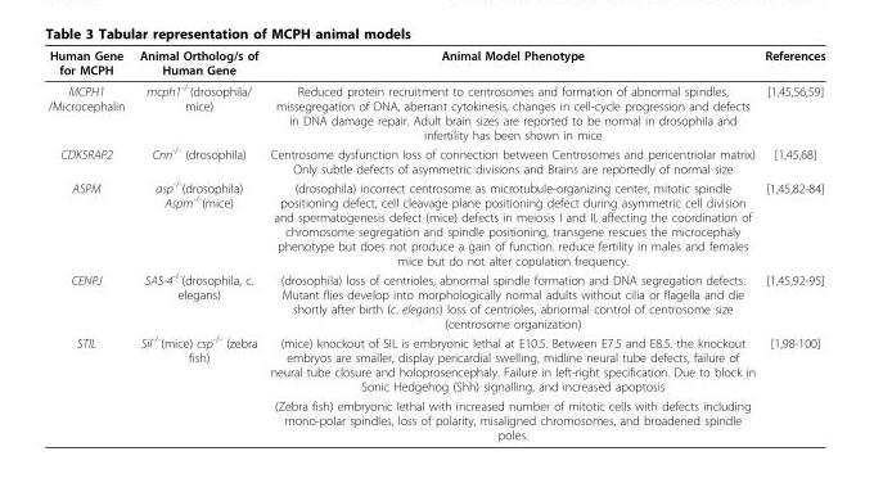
<table><thead><tr><td>Human Gene for MCPH</td><td>Animal Ortholog/s of Human Gene</td><td>Animal Model Phenotype</td><td>References</td></tr></thead><tbody><tr><td>MCPH1 /Microcephalin</td><td>mcph1<sup>-/-</sup>(drosophila/ mice)</td><td>Reduced protein recruitment to centrosomes and formation of abnormal spindles, missegregation of DNA, aberrant cytokinesis, changes in cell-cycle progression and defects in DNA damage repair. Adult brain sizes are reported to be normal in drosophila and infertility has been shown in mice</td><td>[1,45,56,59]</td></tr><tr><td>CDK5RAP2</td><td>Cnn<sup>-/-</sup> (drosophila)</td><td>Centrosome dysfunction loss of connection between Centrosomes and pericentriolar matrix) Only subtle defects of asymmetric divisions and Brains are reportedly of normal size</td><td>[1,45,68]</td></tr><tr><td>ASPM</td><td>asp<sup>-/-</sup>(drosophila) Aspm<sup>-/-</sup>(mice)</td><td>(drosophila) incorrect centrosome as microtubule-organizing center, mitotic spindle positioning defect, cell cleavage plane positioning defect during asymmetric cell division and spermatogenesis defect (mice) defects in meiosis I and II, affecting the coordination of chromosome segregation and spindle positioning, transgene rescues the microcephaly phenotype but does not produce a gain of function. reduce fertility in males and females mice but do not alter copulation frequency.</td><td>[1,45,82-84]</td></tr><tr><td>CENPJ</td><td>SAS-4<sup>-/-</sup>(drosophila, c. elegans)</td><td>(drosophila) loss of centrioles, abnormal spindle formation and DNA segregation defects. Mutant flies develop into morphologically normal adults without cilia or flagella and die shortly after birth (c. elegans) loss of centrioles, abnormal control of centrosome size (centrosome organization)</td><td>[1,45,92-95]</td></tr><tr><td rowspan="2">STIL</td><td>Sil<sup>-/-</sup>(mice) csp<sup>-/-</sup> (zebra fish)</td><td>(mice) knockout of SIL is embryonic lethal at E10.5. Between E7.5 and E8.5. the knockout embryos are smaller, display pericardial swelling, midline neural tube defects, failure of neural tube closure and holoprosencephaly. Failure in left-right specification. Due to block in Sonic Hedgehog (Shh) signalling, and increased apoptosis</td><td>[1,98-100]</td></tr><tr><td></td><td>(Zebra fish) embryonic lethal with increased number of mitotic cells with defects including mono-polar spindles, loss of polarity, misaligned chromosomes, and broadened spindle poles.</td><td></td></tr></tbody></table>